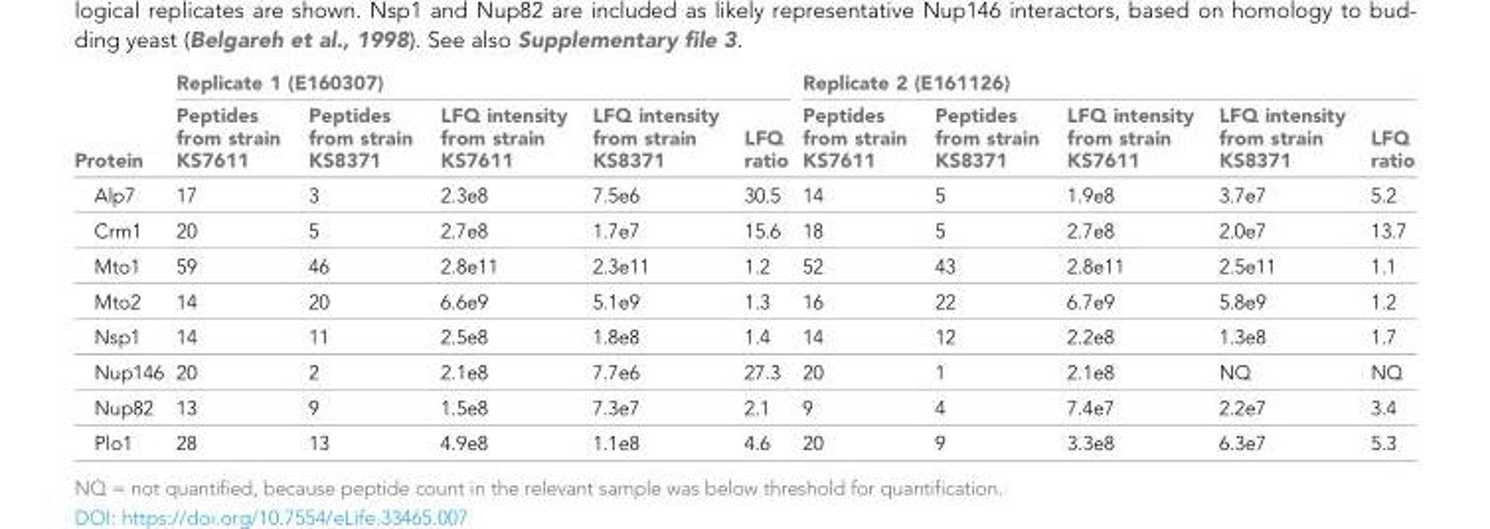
<table><thead><tr><td rowspan="2">Protein</td><td colspan="5">Replicate 1 (E160307)</td><td colspan="5">Replicate 2 (E161126)</td></tr><tr><td>Peptides from strain KS7611</td><td>Peptides from strain KS8371</td><td>LFQ intensity from strain KS7611</td><td>LFQ intensity from strain KS8371</td><td>LFQ ratio</td><td>Peptides from strain KS7611</td><td>Peptides from strain KS8371</td><td>LFQ intensity from strain KS7611</td><td>LFQ intensity from strain KS8371</td><td>LFQ ratio</td></tr></thead><tbody><tr><td>Alp7</td><td>17</td><td>3</td><td>2.3e8</td><td>7.5e6</td><td>30.5</td><td>14</td><td>5</td><td>1.9e8</td><td>3.7e7</td><td>5.2</td></tr><tr><td>Crm1</td><td>20</td><td>5</td><td>2.7e8</td><td>1.7e7</td><td>15.6</td><td>18</td><td>5</td><td>2.7e8</td><td>2.0e7</td><td>13.7</td></tr><tr><td>Mto1</td><td>59</td><td>46</td><td>2.8e11</td><td>2.3e11</td><td>1.2</td><td>52</td><td>43</td><td>2.8e11</td><td>2.5e11</td><td>1.1</td></tr><tr><td>Mto2</td><td>14</td><td>20</td><td>6.6e9</td><td>5.1e9</td><td>1.3</td><td>16</td><td>22</td><td>6.7e9</td><td>5.8e9</td><td>1.2</td></tr><tr><td>Nsp1</td><td>14</td><td>11</td><td>2.5e8</td><td>1.8e8</td><td>1.4</td><td>14</td><td>12</td><td>2.2e8</td><td>1.3e8</td><td>1.7</td></tr><tr><td>Nup146</td><td>20</td><td>2</td><td>2.1e8</td><td>7.7e6</td><td>27.3</td><td>20</td><td>1</td><td>2.1e8</td><td>NQ</td><td>NQ</td></tr><tr><td>Nup82</td><td>13</td><td>9</td><td>1.5e8</td><td>7.3e7</td><td>2.1</td><td>9</td><td>4</td><td>7.4e7</td><td>2.2e7</td><td>3.4</td></tr><tr><td>Plo1</td><td>28</td><td>13</td><td>4.9e8</td><td>1.1e8</td><td>4.6</td><td>20</td><td>9</td><td>3.3e8</td><td>6.3e7</td><td>5.3</td></tr></tbody></table>